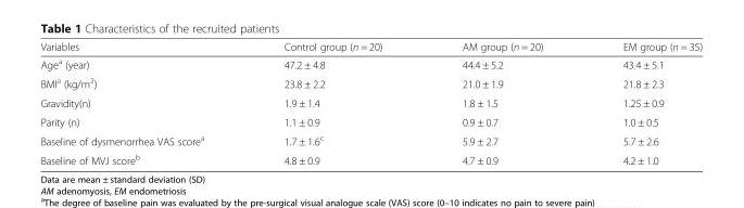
<table><thead><tr><td>Variables</td><td>Control group (n = 20)</td><td>AM group (n = 20)</td><td>EM group (n = 35)</td></tr></thead><tbody><tr><td>Age<sup>a</sup> (year)</td><td>47.2 ± 4.8</td><td>44.4 ± 5.2</td><td>43.4 ± 5.1</td></tr><tr><td>BMI<sup>a</sup> (kg/m<sup>2</sup>)</td><td>23.8 ± 2.2</td><td>21.0 ± 1.9</td><td>21.8 ± 2.3</td></tr><tr><td>Gravidity(n)</td><td>1.9 ± 1.4</td><td>1.8 ± 1.5</td><td>1.25 ± 0.9</td></tr><tr><td>Parity (n)</td><td>1.1 ± 0.9</td><td>0.9 ± 0.7</td><td>1.0 ± 0.5</td></tr><tr><td>Baseline of dysmenorrhea VAS score<sup>a</sup></td><td>1.7 ± 1.6<sup>c</sup></td><td>5.9 ± 2.7</td><td>5.7 ± 2.6</td></tr><tr><td>Baseline of MVJ score<sup>b</sup></td><td>4.8 ± 0.9</td><td>4.7 ± 0.9</td><td>4.2 ± 1.0</td></tr></tbody></table>